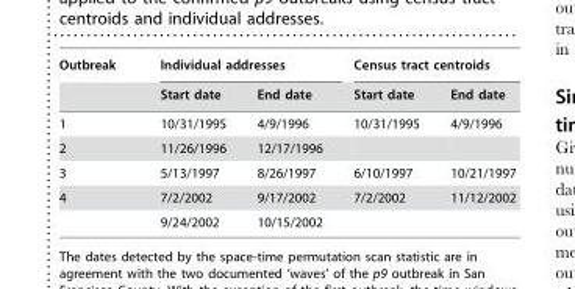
<table><thead><tr><td rowspan="2">Outbreak</td><td colspan="2">Individual addresses</td><td colspan="2">Census tract centroids</td></tr><tr><td>Start date</td><td>End date</td><td>Start date</td><td>End date</td></tr></thead><tbody><tr><td>1</td><td>10/31/1995</td><td>4/9/1996</td><td>10/31/1995</td><td>4/9/1996</td></tr><tr><td>2</td><td>11/26/1996</td><td>12/17/1996</td><td></td><td></td></tr><tr><td>3</td><td>5/13/1997</td><td>8/26/1997</td><td>6/10/1997</td><td>10/21/1997</td></tr><tr><td rowspan="2">4</td><td>7/2/2002</td><td>9/17/2002</td><td>7/2/2002</td><td>11/12/2002</td></tr><tr><td>9/24/2002</td><td>10/15/2002</td><td></td><td></td></tr></tbody></table>